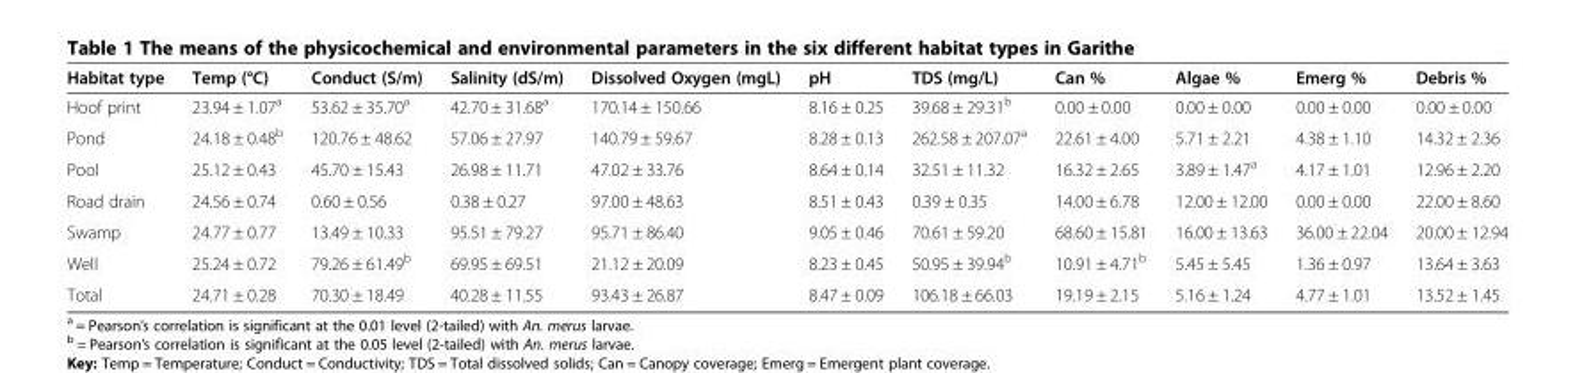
<table><thead><tr><td>Habitat type</td><td>Temp (°C)</td><td>Conduct (S/m)</td><td>Salinity (dS/m)</td><td>Dissolved Oxygen (mgL)</td><td>pH</td><td>TDS (mg/L)</td><td>Can %</td><td>Algae %</td><td>Emerg %</td><td>Debris %</td></tr></thead><tbody><tr><td>Hoof print</td><td>23.94 ± 1.07<sup>a</sup></td><td>53.62 ± 35.70<sup>a</sup></td><td>42.70 ± 31.68<sup>a</sup></td><td>170.14 ± 150.66</td><td>8.16 ± 0.25</td><td>39.68 ± 29.31<sup>b</sup></td><td>0.00 ± 0.00</td><td>0.00 ± 0.00</td><td>0.00 ± 0.00</td><td>0.00 ± 0.00</td></tr><tr><td>Pond</td><td>24.18 ± 0.48<sup>b</sup></td><td>120.76 ± 48.62</td><td>57.06 ± 27.97</td><td>140.79 ± 59.67</td><td>8.28 ± 0.13</td><td>262.58 ± 207.07<sup>a</sup></td><td>22.61 ± 4.00</td><td>5.71 ± 2.21</td><td>4.38 ± 1.10</td><td>14.32 ± 2.36</td></tr><tr><td>Pool</td><td>25.12 ± 0.43</td><td>45.70 ± 15.43</td><td>26.98 ± 11.71</td><td>47.02 ± 33.76</td><td>8.64 ± 0.14</td><td>32.51 ± 11.32</td><td>16.32 ± 2.65</td><td>3.89 ± 1.47<sup>a</sup></td><td>4.17 ± 1.01</td><td>12.96 ± 2.20</td></tr><tr><td>Road drain</td><td>24.56 ± 0.74</td><td>0.60 ± 0.56</td><td>0.38 ± 0.27</td><td>97.00 ± 48.63</td><td>8.51 ± 0.43</td><td>0.39 ± 0.35</td><td>14.00 ± 6.78</td><td>12.00 ± 12.00</td><td>0.00 ± 0.00</td><td>22.00 ± 8.60</td></tr><tr><td>Swamp</td><td>24.77 ± 0.77</td><td>13.49 ± 10.33</td><td>95.51 ± 79.27</td><td>95.71 ± 86.40</td><td>9.05 ± 0.46</td><td>70.61 ± 59.20</td><td>68.60 ± 15.81</td><td>16.00 ± 13.63</td><td>36.00 ± 22.04</td><td>20.00 ± 12.94</td></tr><tr><td>Well</td><td>25.24 ± 0.72</td><td>79.26 ± 61.49<sup>b</sup></td><td>69.95 ± 69.51</td><td>21.12 ± 20.09</td><td>8.23 ± 0.45</td><td>50.95 ± 39.94<sup>b</sup></td><td>10.91 ± 4.71<sup>b</sup></td><td>5.45 ± 5.45</td><td>1.36 ± 0.97</td><td>13.64 ± 3.63</td></tr><tr><td>Total</td><td>24.71 ± 0.28</td><td>70.30 ± 18.49</td><td>40.28 ± 11.55</td><td>93.43 ± 26.87</td><td>8.47 ± 0.09</td><td>106.18 ± 66.03</td><td>19.19 ± 2.15</td><td>5.16 ± 1.24</td><td>4.77 ± 1.01</td><td>13.52 ± 1.45</td></tr></tbody></table>